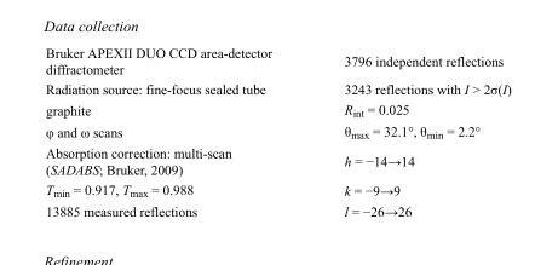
<table><tbody><tr><td>Bruker APEXII DUO CCD area-detector diffractometer</td><td>3796 independent reflections</td></tr><tr><td>Radiation source: fine-focus sealed tube</td><td>3243 reflections with I &gt; 2σ(I)</td></tr><tr><td>graphite</td><td>R<sub>int</sub> = 0.025</td></tr><tr><td>φ and ω scans</td><td>θ<sub>max</sub> = 32.1°, θ<sub>min</sub> = 2.2°</td></tr><tr><td>Absorption correction: multi-scan (SADABS; Bruker, 2009)</td><td>h = −14→14</td></tr><tr><td>T<sub>min</sub> = 0.917, T<sub>max</sub> = 0.988</td><td>k = −9→9</td></tr><tr><td>13885 measured reflections</td><td>l = −26→26</td></tr></tbody></table>